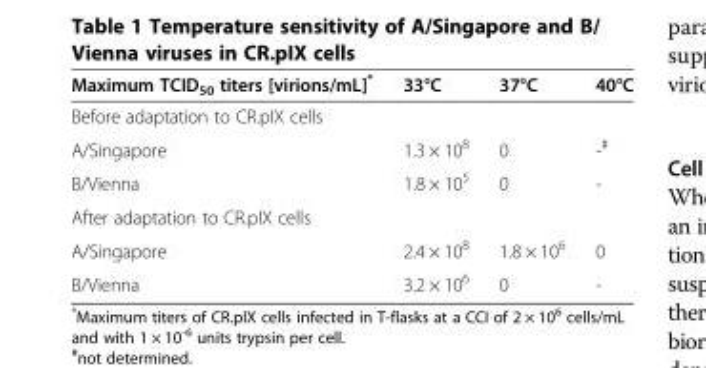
<table><thead><tr><td>Maximum TCID<sub>50</sub> titers [virions/mL]*</td><td>33°C</td><td>37°C</td><td>40°C</td></tr></thead><tbody><tr><td colspan="4">Before adaptation to CR.pIX cells</td></tr><tr><td>A/Singapore</td><td>1.3 × 10<sup>8</sup></td><td>0</td><td>-<sup>#</sup></td></tr><tr><td>B/Vienna</td><td>1.8 × 10<sup>5</sup></td><td>0</td><td>-</td></tr><tr><td colspan="4">After adaptation to CR.pIX cells</td></tr><tr><td>A/Singapore</td><td>2.4 × 10<sup>8</sup></td><td>1.8 × 10<sup>6</sup></td><td>0</td></tr><tr><td>B/Vienna</td><td>3.2 × 10<sup>6</sup></td><td>0</td><td>-</td></tr></tbody></table>